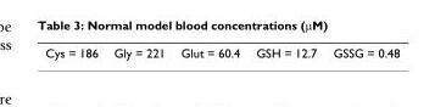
<table><tbody><tr><td>Cys = 186</td><td>Gly = 221</td><td>Glut = 60.4</td><td>GSH = 12.7</td><td>GSSG = 0.48</td></tr></tbody></table>